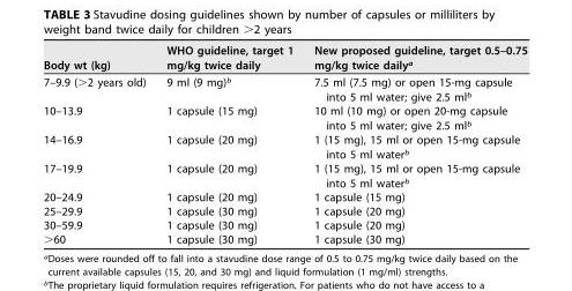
<table><thead><tr><td>Body wt (kg)</td><td>WHO guideline, target 1 mg/kg twice daily</td><td>New proposed guideline, target 0.5–0.75 mg/kg twice daily<sup>a</sup></td></tr></thead><tbody><tr><td>7–9.9 (&gt;2 years old)</td><td>9 ml (9 mg)<sup>b</sup></td><td>7.5 ml (7.5 mg) or open 15-mg capsule into 5 ml water; give 2.5 ml<sup>b</sup></td></tr><tr><td>10–13.9</td><td>1 capsule (15 mg)</td><td>10 ml (10 mg) or open 20-mg capsule into 5 ml water; give 2.5 ml<sup>b</sup></td></tr><tr><td>14–16.9</td><td>1 capsule (20 mg)</td><td>1 (15 mg), 15 ml or open 15-mg capsule into 5 ml water<sup>b</sup></td></tr><tr><td>17–19.9</td><td>1 capsule (20 mg)</td><td>1 (15 mg), 15 ml or open 15-mg capsule into 5 ml water<sup>b</sup></td></tr><tr><td>20–24.9</td><td>1 capsule (20 mg)</td><td>1 capsule (15 mg)</td></tr><tr><td>25–29.9</td><td>1 capsule (30 mg)</td><td>1 capsule (20 mg)</td></tr><tr><td>30–59.9</td><td>1 capsule (30 mg)</td><td>1 capsule (20 mg)</td></tr><tr><td>&gt;60</td><td>1 capsule (30 mg)</td><td>1 capsule (30 mg)</td></tr></tbody></table>